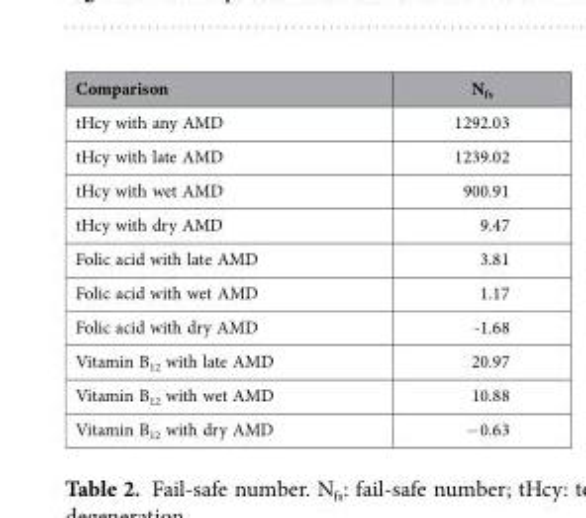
<table><thead><tr><td>Comparison</td><td>N<sub>fs</sub></td></tr></thead><tbody><tr><td>tHcy with any AMD</td><td>1292.03</td></tr><tr><td>tHcy with late AMD</td><td>1239.02</td></tr><tr><td>tHcy with wet AMD</td><td>900.91</td></tr><tr><td>tHcy with dry AMD</td><td>9.47</td></tr><tr><td>Folic acid with late AMD</td><td>3.81</td></tr><tr><td>Folic acid with wet AMD</td><td>1.17</td></tr><tr><td>Folic acid with dry AMD</td><td>-1.68</td></tr><tr><td>Vitamin B<sub>12</sub> with late AMD</td><td>20.97</td></tr><tr><td>Vitamin B<sub>12</sub> with wet AMD</td><td>10.88</td></tr><tr><td>Vitamin B<sub>12</sub> with dry AMD</td><td>− 0.63</td></tr></tbody></table>